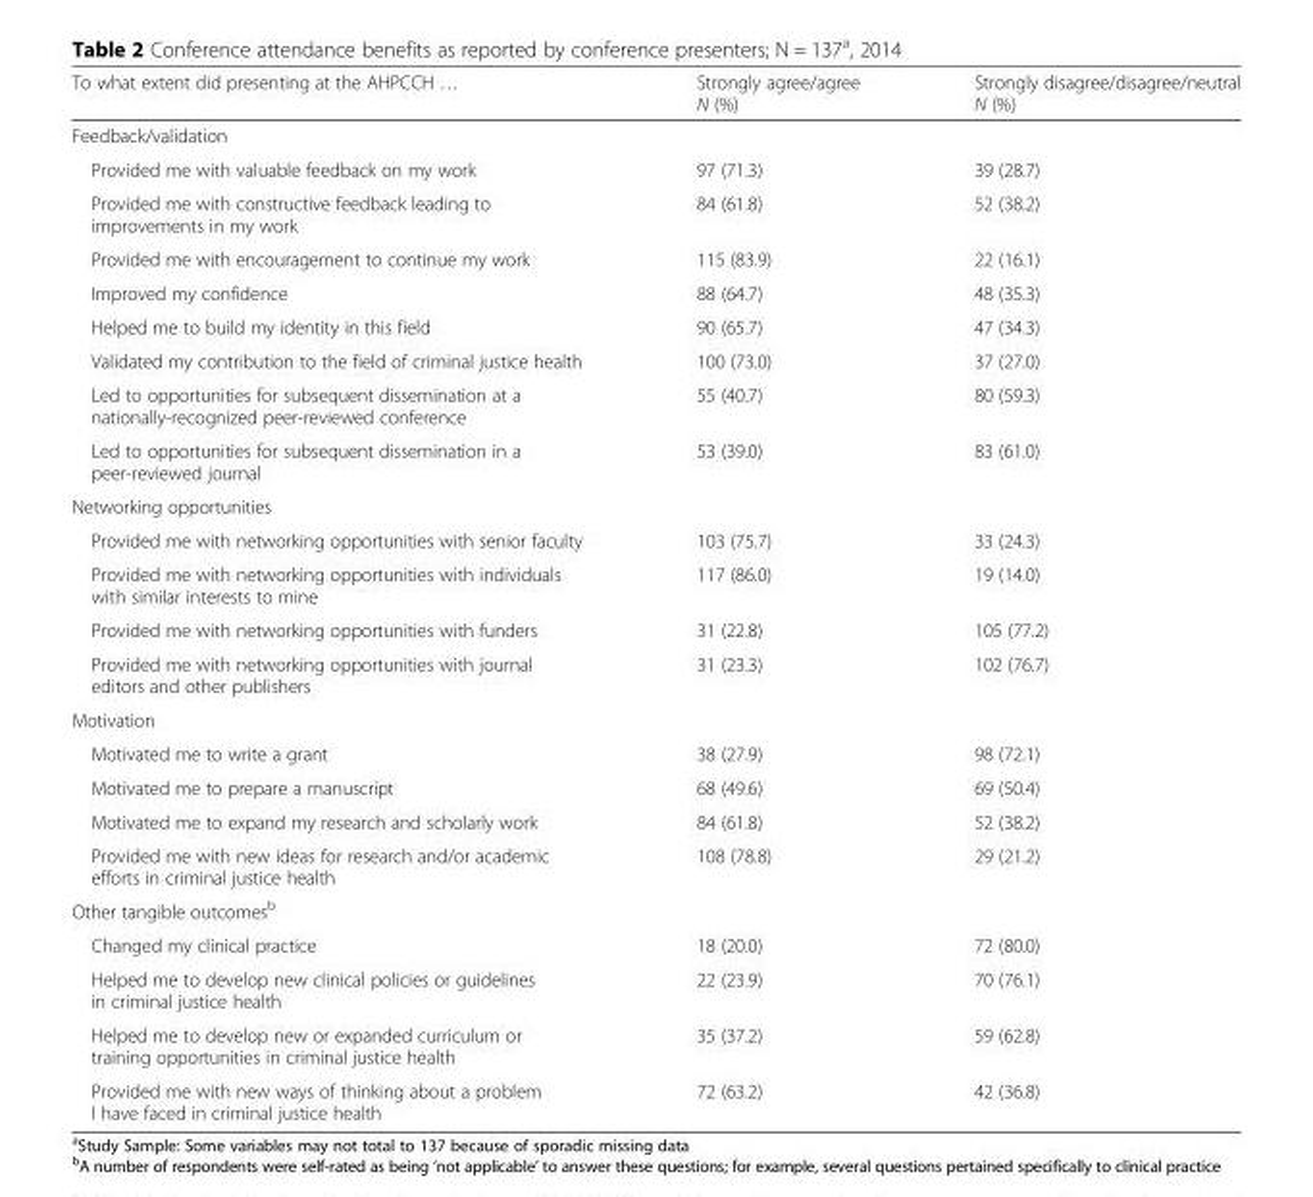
<table><thead><tr><td>To what extent did presenting at the AHPCCH …</td><td>Strongly agree/agree N (%)</td><td>Strongly disagree/disagree/neutral N (%)</td></tr></thead><tbody><tr><td colspan="3">Feedback/validation</td></tr><tr><td>Provided me with valuable feedback on my work</td><td>97 (71.3)</td><td>39 (28.7)</td></tr><tr><td>Provided me with constructive feedback leading to improvements in my work</td><td>84 (61.8)</td><td>52 (38.2)</td></tr><tr><td>Provided me with encouragement to continue my work</td><td>115 (83.9)</td><td>22 (16.1)</td></tr><tr><td>Improved my confidence</td><td>88 (64.7)</td><td>48 (35.3)</td></tr><tr><td>Helped me to build my identity in this field</td><td>90 (65.7)</td><td>47 (34.3)</td></tr><tr><td>Validated my contribution to the field of criminal justice health</td><td>100 (73.0)</td><td>37 (27.0)</td></tr><tr><td>Led to opportunities for subsequent dissemination at a nationally-recognized peer-reviewed conference</td><td>55 (40.7)</td><td>80 (59.3)</td></tr><tr><td>Led to opportunities for subsequent dissemination in a peer-reviewed journal</td><td>53 (39.0)</td><td>83 (61.0)</td></tr><tr><td colspan="3">Networking opportunities</td></tr><tr><td>Provided me with networking opportunities with senior faculty</td><td>103 (75.7)</td><td>33 (24.3)</td></tr><tr><td>Provided me with networking opportunities with individuals with similar interests to mine</td><td>117 (86.0)</td><td>19 (14.0)</td></tr><tr><td>Provided me with networking opportunities with funders</td><td>31 (22.8)</td><td>105 (77.2)</td></tr><tr><td>Provided me with networking opportunities with journal editors and other publishers</td><td>31 (23.3)</td><td>102 (76.7)</td></tr><tr><td colspan="3">Motivation</td></tr><tr><td>Motivated me to write a grant</td><td>38 (27.9)</td><td>98 (72.1)</td></tr><tr><td>Motivated me to prepare a manuscript</td><td>68 (49.6)</td><td>69 (50.4)</td></tr><tr><td>Motivated me to expand my research and scholarly work</td><td>84 (61.8)</td><td>52 (38.2)</td></tr><tr><td>Provided me with new ideas for research and/or academic efforts in criminal justice health</td><td>108 (78.8)</td><td>29 (21.2)</td></tr><tr><td colspan="3">Other tangible outcomes<sup>b</sup></td></tr><tr><td>Changed my clinical practice</td><td>18 (20.0)</td><td>72 (80.0)</td></tr><tr><td>Helped me to develop new clinical policies or guidelines in criminal justice health</td><td>22 (23.9)</td><td>70 (76.1)</td></tr><tr><td>Helped me to develop new or expanded curriculum or training opportunities in criminal justice health</td><td>35 (37.2)</td><td>59 (62.8)</td></tr><tr><td>Provided me with new ways of thinking about a problem I have faced in criminal justice health</td><td>72 (63.2)</td><td>42 (36.8)</td></tr></tbody></table>